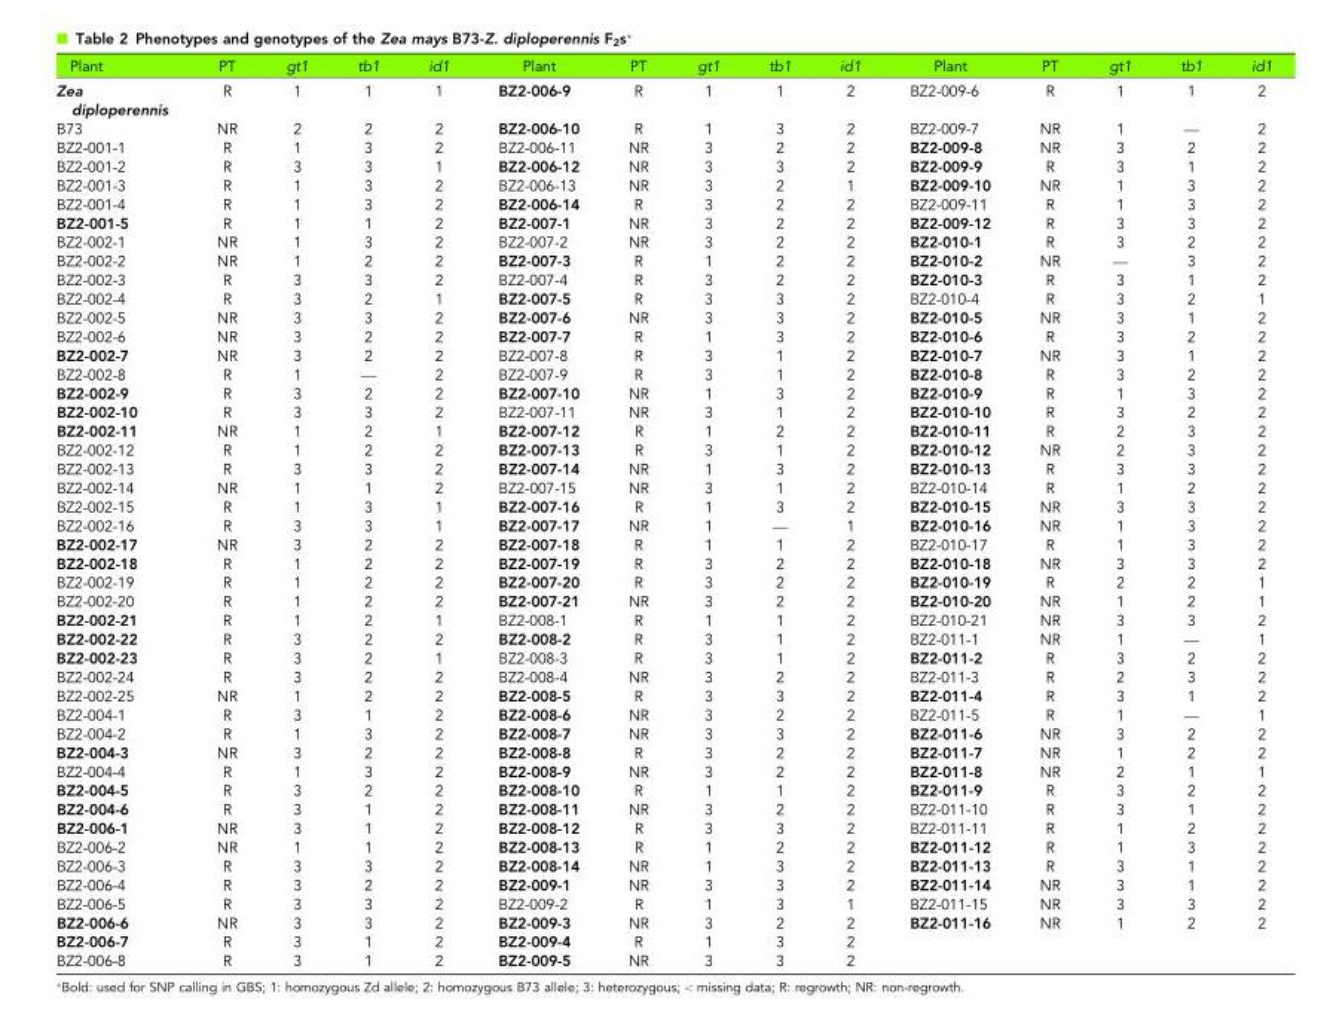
<table><thead><tr><td>Plant</td><td>PT</td><td>gt1</td><td>tb1</td><td>id1</td><td>Plant</td><td>PT</td><td>gt1</td><td>tb1</td><td>id1</td><td>Plant</td><td>PT</td><td>gt1</td><td>tb1</td><td>id1</td></tr></thead><tbody><tr><td>Zea diploperennis</td><td>R</td><td>1</td><td>1</td><td>1</td><td>BZ2-006-9</td><td>R</td><td>1</td><td>1</td><td>2</td><td>BZ2-009-6</td><td>R</td><td>1</td><td>1</td><td>2</td></tr><tr><td>B73</td><td>NR</td><td>2</td><td>2</td><td>2</td><td>BZ2-006-10</td><td>R</td><td>1</td><td>3</td><td>2</td><td>BZ2-009-7</td><td>NR</td><td>1</td><td>—</td><td>2</td></tr><tr><td>BZ2-001-1</td><td>R</td><td>1</td><td>3</td><td>2</td><td>BZ2-006-11</td><td>NR</td><td>3</td><td>2</td><td>2</td><td>BZ2-009-8</td><td>NR</td><td>3</td><td>2</td><td>2</td></tr><tr><td>BZ2-001-2</td><td>R</td><td>3</td><td>3</td><td>1</td><td>BZ2-006-12</td><td>NR</td><td>3</td><td>3</td><td>2</td><td>BZ2-009-9</td><td>R</td><td>3</td><td>1</td><td>2</td></tr><tr><td>BZ2-001-3</td><td>R</td><td>1</td><td>3</td><td>2</td><td>BZ2-006-13</td><td>NR</td><td>3</td><td>2</td><td>1</td><td>BZ2-009-10</td><td>NR</td><td>1</td><td>3</td><td>2</td></tr><tr><td>BZ2-001-4</td><td>R</td><td>1</td><td>3</td><td>2</td><td>BZ2-006-14</td><td>R</td><td>3</td><td>2</td><td>2</td><td>BZ2-009-11</td><td>R</td><td>1</td><td>3</td><td>2</td></tr><tr><td>BZ2-001-5</td><td>R</td><td>1</td><td>1</td><td>2</td><td>BZ2-007-1</td><td>NR</td><td>3</td><td>2</td><td>2</td><td>BZ2-009-12</td><td>R</td><td>3</td><td>3</td><td>2</td></tr><tr><td>BZ2-002-1</td><td>NR</td><td>1</td><td>3</td><td>2</td><td>BZ2-007-2</td><td>NR</td><td>3</td><td>2</td><td>2</td><td>BZ2-010-1</td><td>R</td><td>3</td><td>2</td><td>2</td></tr><tr><td>BZ2-002-2</td><td>NR</td><td>1</td><td>2</td><td>2</td><td>BZ2-007-3</td><td>R</td><td>1</td><td>2</td><td>2</td><td>BZ2-010-2</td><td>NR</td><td>—</td><td>3</td><td>2</td></tr><tr><td>BZ2-002-3</td><td>R</td><td>3</td><td>3</td><td>2</td><td>BZ2-007-4</td><td>R</td><td>3</td><td>2</td><td>2</td><td>BZ2-010-3</td><td>R</td><td>3</td><td>1</td><td>2</td></tr><tr><td>BZ2-002-4</td><td>R</td><td>3</td><td>2</td><td>1</td><td>BZ2-007-5</td><td>R</td><td>3</td><td>3</td><td>2</td><td>BZ2-010-4</td><td>R</td><td>3</td><td>2</td><td>1</td></tr><tr><td>BZ2-002-5</td><td>NR</td><td>3</td><td>3</td><td>2</td><td>BZ2-007-6</td><td>NR</td><td>3</td><td>3</td><td>2</td><td>BZ2-010-5</td><td>NR</td><td>3</td><td>1</td><td>2</td></tr><tr><td>BZ2-002-6</td><td>NR</td><td>3</td><td>2</td><td>2</td><td>BZ2-007-7</td><td>R</td><td>1</td><td>3</td><td>2</td><td>BZ2-010-6</td><td>R</td><td>3</td><td>2</td><td>2</td></tr><tr><td>BZ2-002-7</td><td>NR</td><td>3</td><td>2</td><td>2</td><td>BZ2-007-8</td><td>R</td><td>3</td><td>1</td><td>2</td><td>BZ2-010-7</td><td>NR</td><td>3</td><td>1</td><td>2</td></tr><tr><td>BZ2-002-8</td><td>R</td><td>1</td><td>—</td><td>2</td><td>BZ2-007-9</td><td>R</td><td>3</td><td>1</td><td>2</td><td>BZ2-010-8</td><td>R</td><td>3</td><td>2</td><td>2</td></tr><tr><td>BZ2-002-9</td><td>R</td><td>3</td><td>2</td><td>2</td><td>BZ2-007-10</td><td>NR</td><td>1</td><td>3</td><td>2</td><td>BZ2-010-9</td><td>R</td><td>1</td><td>3</td><td>2</td></tr><tr><td>BZ2-002-10</td><td>R</td><td>3</td><td>3</td><td>2</td><td>BZ2-007-11</td><td>NR</td><td>3</td><td>1</td><td>2</td><td>BZ2-010-10</td><td>R</td><td>3</td><td>2</td><td>2</td></tr><tr><td>BZ2-002-11</td><td>NR</td><td>1</td><td>2</td><td>1</td><td>BZ2-007-12</td><td>R</td><td>1</td><td>2</td><td>2</td><td>BZ2-010-11</td><td>R</td><td>2</td><td>3</td><td>2</td></tr><tr><td>BZ2-002-12</td><td>R</td><td>1</td><td>2</td><td>2</td><td>BZ2-007-13</td><td>R</td><td>3</td><td>1</td><td>2</td><td>BZ2-010-12</td><td>NR</td><td>2</td><td>3</td><td>2</td></tr><tr><td>BZ2-002-13</td><td>R</td><td>3</td><td>3</td><td>2</td><td>BZ2-007-14</td><td>NR</td><td>1</td><td>3</td><td>2</td><td>BZ2-010-13</td><td>R</td><td>3</td><td>3</td><td>2</td></tr><tr><td>BZ2-002-14</td><td>NR</td><td>1</td><td>1</td><td>2</td><td>BZ2-007-15</td><td>NR</td><td>3</td><td>1</td><td>2</td><td>BZ2-010-14</td><td>R</td><td>1</td><td>2</td><td>2</td></tr><tr><td>BZ2-002-15</td><td>R</td><td>1</td><td>3</td><td>1</td><td>BZ2-007-16</td><td>R</td><td>1</td><td>3</td><td>2</td><td>BZ2-010-15</td><td>NR</td><td>3</td><td>3</td><td>2</td></tr><tr><td>BZ2-002-16</td><td>R</td><td>3</td><td>3</td><td>1</td><td>BZ2-007-17</td><td>NR</td><td>1</td><td>—</td><td>1</td><td>BZ2-010-16</td><td>NR</td><td>1</td><td>3</td><td>2</td></tr><tr><td>BZ2-002-17</td><td>NR</td><td>3</td><td>2</td><td>2</td><td>BZ2-007-18</td><td>R</td><td>1</td><td>1</td><td>2</td><td>BZ2-010-17</td><td>R</td><td>1</td><td>3</td><td>2</td></tr><tr><td>BZ2-002-18</td><td>R</td><td>1</td><td>2</td><td>2</td><td>BZ2-007-19</td><td>R</td><td>3</td><td>2</td><td>2</td><td>BZ2-010-18</td><td>NR</td><td>3</td><td>3</td><td>2</td></tr><tr><td>BZ2-002-19</td><td>R</td><td>1</td><td>2</td><td>2</td><td>BZ2-007-20</td><td>R</td><td>3</td><td>2</td><td>2</td><td>BZ2-010-19</td><td>R</td><td>2</td><td>2</td><td>1</td></tr><tr><td>BZ2-002-20</td><td>R</td><td>1</td><td>2</td><td>2</td><td>BZ2-007-21</td><td>NR</td><td>3</td><td>2</td><td>2</td><td>BZ2-010-20</td><td>NR</td><td>1</td><td>2</td><td>1</td></tr><tr><td>BZ2-002-21</td><td>R</td><td>1</td><td>2</td><td>1</td><td>BZ2-008-1</td><td>R</td><td>1</td><td>1</td><td>2</td><td>BZ2-010-21</td><td>NR</td><td>3</td><td>3</td><td>2</td></tr><tr><td>BZ2-002-22</td><td>R</td><td>3</td><td>2</td><td>2</td><td>BZ2-008-2</td><td>R</td><td>3</td><td>1</td><td>2</td><td>BZ2-011-1</td><td>NR</td><td>1</td><td>—</td><td>1</td></tr><tr><td>BZ2-002-23</td><td>R</td><td>3</td><td>2</td><td>1</td><td>BZ2-008-3</td><td>R</td><td>3</td><td>1</td><td>2</td><td>BZ2-011-2</td><td>R</td><td>3</td><td>2</td><td>2</td></tr><tr><td>BZ2-002-24</td><td>R</td><td>3</td><td>2</td><td>2</td><td>BZ2-008-4</td><td>NR</td><td>3</td><td>2</td><td>2</td><td>BZ2-011-3</td><td>R</td><td>2</td><td>3</td><td>2</td></tr><tr><td>BZ2-002-25</td><td>NR</td><td>1</td><td>2</td><td>2</td><td>BZ2-008-5</td><td>R</td><td>3</td><td>3</td><td>2</td><td>BZ2-011-4</td><td>R</td><td>3</td><td>1</td><td>2</td></tr><tr><td>BZ2-004-1</td><td>R</td><td>3</td><td>1</td><td>2</td><td>BZ2-008-6</td><td>NR</td><td>3</td><td>2</td><td>2</td><td>BZ2-011-5</td><td>R</td><td>1</td><td>—</td><td>1</td></tr><tr><td>BZ2-004-2</td><td>R</td><td>1</td><td>3</td><td>2</td><td>BZ2-008-7</td><td>NR</td><td>3</td><td>3</td><td>2</td><td>BZ2-011-6</td><td>NR</td><td>3</td><td>2</td><td>2</td></tr><tr><td>BZ2-004-3</td><td>NR</td><td>3</td><td>2</td><td>2</td><td>BZ2-008-8</td><td>R</td><td>3</td><td>2</td><td>2</td><td>BZ2-011-7</td><td>NR</td><td>1</td><td>2</td><td>2</td></tr><tr><td>BZ2-004-4</td><td>R</td><td>1</td><td>3</td><td>2</td><td>BZ2-008-9</td><td>NR</td><td>3</td><td>2</td><td>2</td><td>BZ2-011-8</td><td>NR</td><td>2</td><td>1</td><td>1</td></tr><tr><td>BZ2-004-5</td><td>R</td><td>3</td><td>2</td><td>2</td><td>BZ2-008-10</td><td>R</td><td>1</td><td>1</td><td>2</td><td>BZ2-011-9</td><td>R</td><td>3</td><td>2</td><td>2</td></tr><tr><td>BZ2-004-6</td><td>R</td><td>3</td><td>1</td><td>2</td><td>BZ2-008-11</td><td>NR</td><td>3</td><td>2</td><td>2</td><td>BZ2-011-10</td><td>R</td><td>3</td><td>1</td><td>2</td></tr><tr><td>BZ2-006-1</td><td>NR</td><td>3</td><td>1</td><td>2</td><td>BZ2-008-12</td><td>R</td><td>3</td><td>3</td><td>2</td><td>BZ2-011-11</td><td>R</td><td>1</td><td>2</td><td>2</td></tr><tr><td>BZ2-006-2</td><td>NR</td><td>1</td><td>1</td><td>2</td><td>BZ2-008-13</td><td>R</td><td>1</td><td>2</td><td>2</td><td>BZ2-011-12</td><td>R</td><td>1</td><td>3</td><td>2</td></tr><tr><td>BZ2-006-3</td><td>R</td><td>3</td><td>3</td><td>2</td><td>BZ2-008-14</td><td>NR</td><td>1</td><td>3</td><td>2</td><td>BZ2-011-13</td><td>R</td><td>3</td><td>1</td><td>2</td></tr><tr><td>BZ2-006-4</td><td>R</td><td>3</td><td>2</td><td>2</td><td>BZ2-009-1</td><td>NR</td><td>3</td><td>3</td><td>2</td><td>BZ2-011-14</td><td>NR</td><td>3</td><td>1</td><td>2</td></tr><tr><td>BZ2-006-5</td><td>R</td><td>3</td><td>3</td><td>2</td><td>BZ2-009-2</td><td>R</td><td>1</td><td>3</td><td>1</td><td>BZ2-011-15</td><td>NR</td><td>3</td><td>3</td><td>2</td></tr><tr><td>BZ2-006-6</td><td>NR</td><td>3</td><td>3</td><td>2</td><td>BZ2-009-3</td><td>NR</td><td>3</td><td>2</td><td>2</td><td>BZ2-011-16</td><td>NR</td><td>1</td><td>2</td><td>2</td></tr><tr><td>BZ2-006-7</td><td>R</td><td>3</td><td>1</td><td>2</td><td>BZ2-009-4</td><td>R</td><td>1</td><td>3</td><td>2</td><td></td><td></td><td></td><td></td><td></td></tr><tr><td>BZ2-006-8</td><td>R</td><td>3</td><td>1</td><td>2</td><td>BZ2-009-5</td><td>NR</td><td>3</td><td>3</td><td>2</td><td></td><td></td><td></td><td></td><td></td></tr></tbody></table>